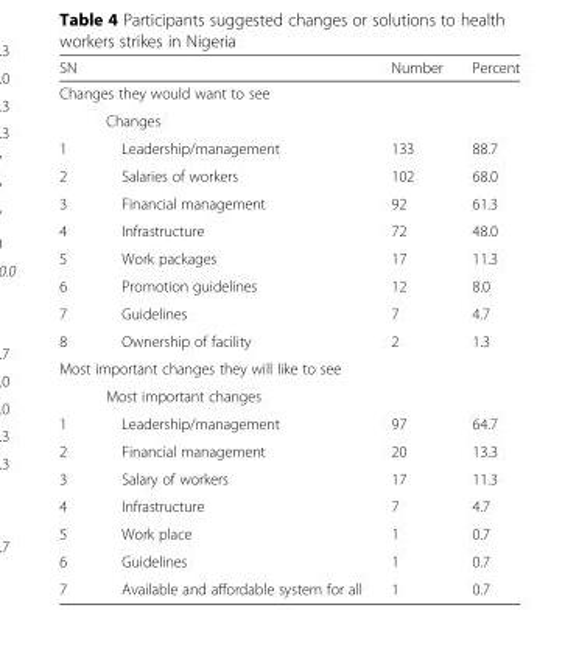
<table><thead><tr><td>SN</td><td></td><td>Number</td><td>Percent</td></tr></thead><tbody><tr><td colspan="4">Changes they would want to see</td></tr><tr><td></td><td>Changes</td><td></td><td></td></tr><tr><td>1</td><td>Leadership/management</td><td>133</td><td>88.7</td></tr><tr><td>2</td><td>Salaries of workers</td><td>102</td><td>68.0</td></tr><tr><td>3</td><td>Financial management</td><td>92</td><td>61.3</td></tr><tr><td>4</td><td>Infrastructure</td><td>72</td><td>48.0</td></tr><tr><td>5</td><td>Work packages</td><td>17</td><td>11.3</td></tr><tr><td>6</td><td>Promotion guidelines</td><td>12</td><td>8.0</td></tr><tr><td>7</td><td>Guidelines</td><td>7</td><td>4.7</td></tr><tr><td>8</td><td>Ownership of facility</td><td>2</td><td>1.3</td></tr><tr><td colspan="4">Most important changes they will like to see</td></tr><tr><td></td><td>Most important changes</td><td></td><td></td></tr><tr><td>1</td><td>Leadership/management</td><td>97</td><td>64.7</td></tr><tr><td>2</td><td>Financial management</td><td>20</td><td>13.3</td></tr><tr><td>3</td><td>Salary of workers</td><td>17</td><td>11.3</td></tr><tr><td>4</td><td>Infrastructure</td><td>7</td><td>4.7</td></tr><tr><td>5</td><td>Work place</td><td>1</td><td>0.7</td></tr><tr><td>6</td><td>Guidelines</td><td>1</td><td>0.7</td></tr><tr><td>7</td><td>Available and affordable system for all</td><td>1</td><td>0.7</td></tr></tbody></table>